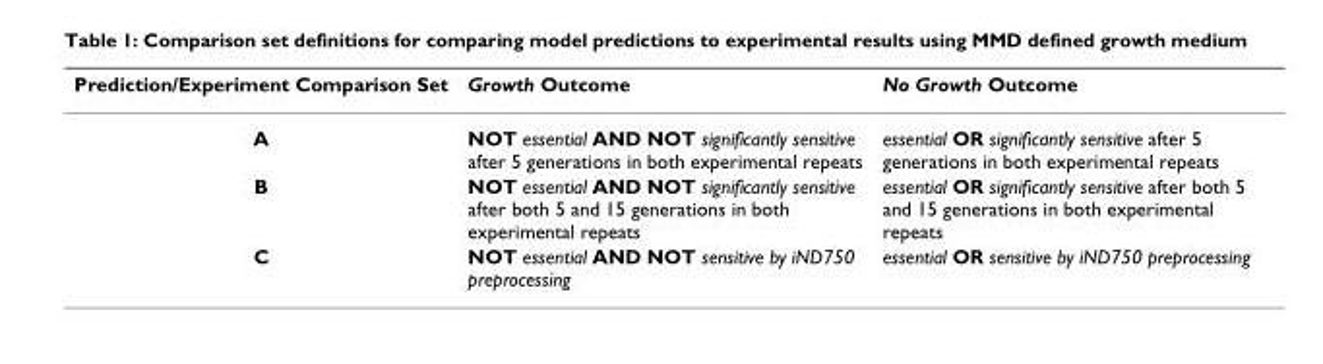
<table><thead><tr><td>Prediction/Experiment Comparison Set</td><td>Growth Outcome</td><td>No Growth Outcome</td></tr></thead><tbody><tr><td>A</td><td>NOT essential AND NOT significantly sensitive after 5 generations in both experimental repeats</td><td>essential OR significantly sensitive after 5 generations in both experimental repeats</td></tr><tr><td>B</td><td>NOT essential AND NOT significantly sensitive after both 5 and 15 generations in both experimental repeats</td><td>essential OR significantly sensitive after both 5 and 15 generations in both experimental repeats</td></tr><tr><td>C</td><td>NOT essential AND NOT sensitive by iND750 preprocessing</td><td>essential OR sensitive by iND750 preprocessing</td></tr></tbody></table>